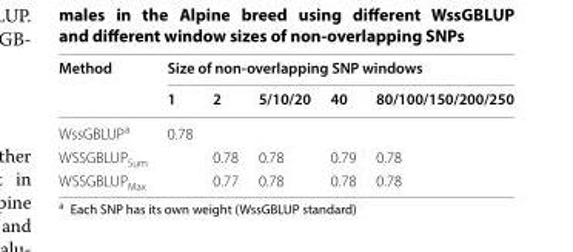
<table><thead><tr><td rowspan="2">Method</td><td colspan="5">Size of non‑overlapping SNP windows</td></tr><tr><td>1</td><td>2</td><td>5/10/20</td><td>40</td><td>80/100/150/200/250</td></tr></thead><tbody><tr><td>WssGBLUP<sup>a</sup></td><td>0.78</td><td></td><td></td><td></td><td></td></tr><tr><td>WSSGBLUP<sub>Sum</sub></td><td></td><td>0.78</td><td>0.78</td><td>0.79</td><td>0.78</td></tr><tr><td>WSSGBLUP<sub>Max</sub></td><td></td><td>0.77</td><td>0.78</td><td>0.78</td><td>0.78</td></tr></tbody></table>